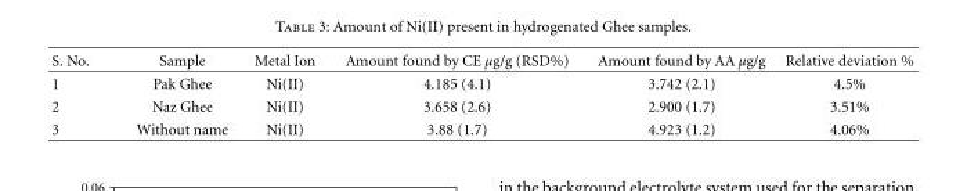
<table><thead><tr><td>S. No.</td><td>Sample</td><td>Metal Ion</td><td>Amount found by CE µg/g (RSD%)</td><td>Amount found by AA µg/g</td><td>Relative deviation %</td></tr></thead><tbody><tr><td>1</td><td>Pak Ghee</td><td>Ni(II)</td><td>4.185 (4.1)</td><td>3.742 (2.1)</td><td>4.5%</td></tr><tr><td>2</td><td>Naz Ghee</td><td>Ni(II)</td><td>3.658 (2.6)</td><td>2.900 (1.7)</td><td>3.51%</td></tr><tr><td>3</td><td>Without name</td><td>Ni(II)</td><td>3.88 (1.7)</td><td>4.923 (1.2)</td><td>4.06%</td></tr></tbody></table>